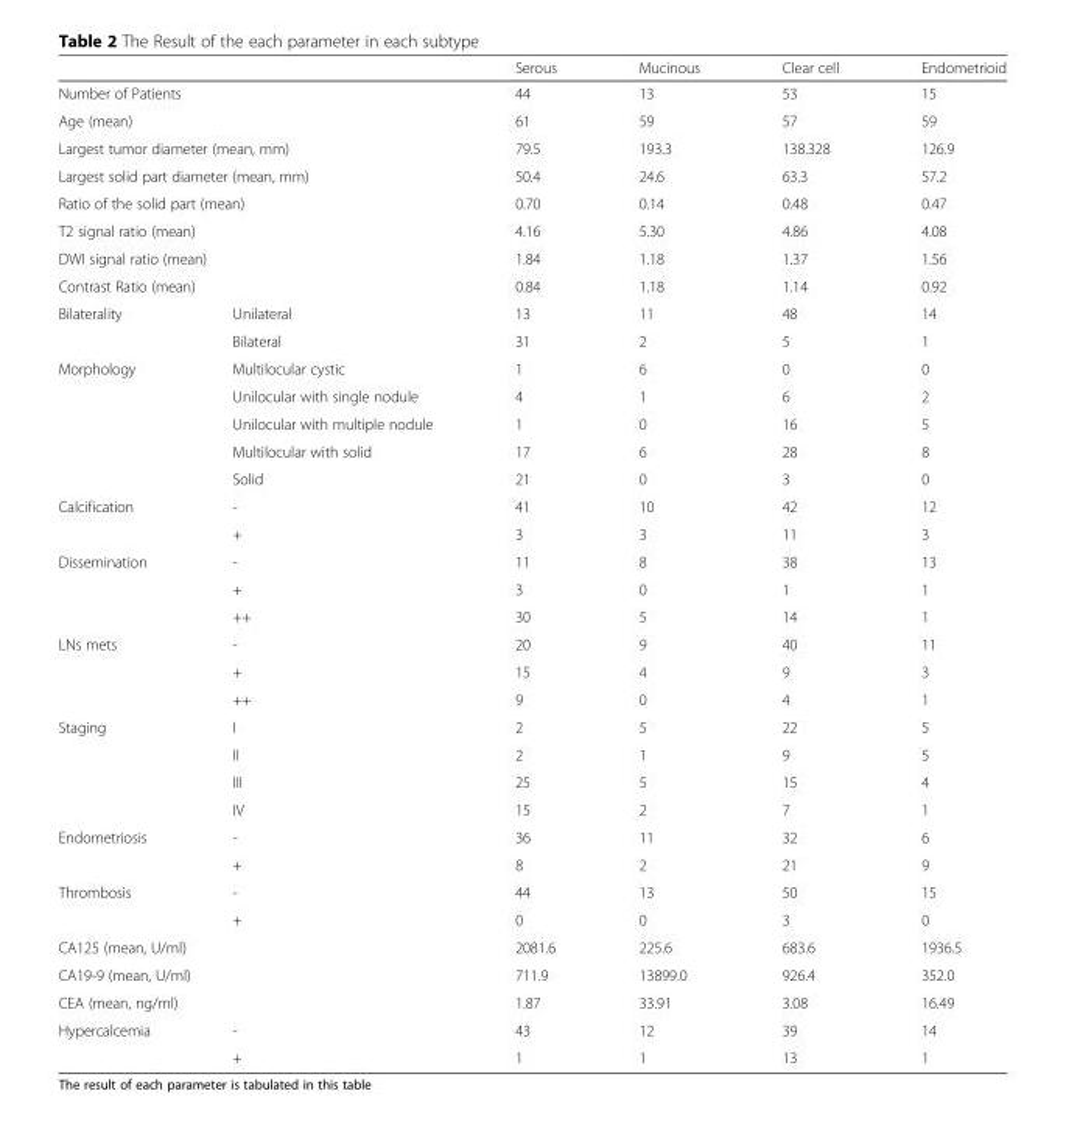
<table><thead><tr><td></td><td></td><td>Serous</td><td>Mucinous</td><td>Clear cell</td><td>Endometrioid</td></tr></thead><tbody><tr><td colspan="2">Number of Patients</td><td>44</td><td>13</td><td>53</td><td>15</td></tr><tr><td colspan="2">Age (mean)</td><td>61</td><td>59</td><td>57</td><td>59</td></tr><tr><td colspan="2">Largest tumor diameter (mean, mm)</td><td>79.5</td><td>193.3</td><td>138.328</td><td>126.9</td></tr><tr><td colspan="2">Largest solid part diameter (mean, mm)</td><td>50.4</td><td>24.6</td><td>63.3</td><td>57.2</td></tr><tr><td colspan="2">Ratio of the solid part (mean)</td><td>0.70</td><td>0.14</td><td>0.48</td><td>0.47</td></tr><tr><td colspan="2">T2 signal ratio (mean)</td><td>4.16</td><td>5.30</td><td>4.86</td><td>4.08</td></tr><tr><td colspan="2">DWI signal ratio (mean)</td><td>1.84</td><td>1.18</td><td>1.37</td><td>1.56</td></tr><tr><td colspan="2">Contrast Ratio (mean)</td><td>0.84</td><td>1.18</td><td>1.14</td><td>0.92</td></tr><tr><td rowspan="2">Bilaterality</td><td>Unilateral</td><td>13</td><td>11</td><td>48</td><td>14</td></tr><tr><td>Bilateral</td><td>31</td><td>2</td><td>5</td><td>1</td></tr><tr><td rowspan="5">Morphology</td><td>Multilocular cystic</td><td>1</td><td>6</td><td>0</td><td>0</td></tr><tr><td>Unilocular with single nodule</td><td>4</td><td>1</td><td>6</td><td>2</td></tr><tr><td>Unilocular with multiple nodule</td><td>1</td><td>0</td><td>16</td><td>5</td></tr><tr><td>Multilocular with solid</td><td>17</td><td>6</td><td>28</td><td>8</td></tr><tr><td>Solid</td><td>21</td><td>0</td><td>3</td><td>0</td></tr><tr><td rowspan="2">Calcification</td><td>-</td><td>41</td><td>10</td><td>42</td><td>12</td></tr><tr><td>+</td><td>3</td><td>3</td><td>11</td><td>3</td></tr><tr><td rowspan="3">Dissemination</td><td>-</td><td>11</td><td>8</td><td>38</td><td>13</td></tr><tr><td>+</td><td>3</td><td>0</td><td>1</td><td>1</td></tr><tr><td>++</td><td>30</td><td>5</td><td>14</td><td>1</td></tr><tr><td rowspan="3">LNs mets</td><td>-</td><td>20</td><td>9</td><td>40</td><td>11</td></tr><tr><td>+</td><td>15</td><td>4</td><td>9</td><td>3</td></tr><tr><td>++</td><td>9</td><td>0</td><td>4</td><td>1</td></tr><tr><td rowspan="4">Staging</td><td>I</td><td>2</td><td>5</td><td>22</td><td>5</td></tr><tr><td>II</td><td>2</td><td>1</td><td>9</td><td>5</td></tr><tr><td>III</td><td>25</td><td>5</td><td>15</td><td>4</td></tr><tr><td>IV</td><td>15</td><td>2</td><td>7</td><td>1</td></tr><tr><td rowspan="2">Endometriosis</td><td>-</td><td>36</td><td>11</td><td>32</td><td>6</td></tr><tr><td>+</td><td>8</td><td>2</td><td>21</td><td>9</td></tr><tr><td rowspan="2">Thrombosis</td><td>-</td><td>44</td><td>13</td><td>50</td><td>15</td></tr><tr><td>+</td><td>0</td><td>0</td><td>3</td><td>0</td></tr><tr><td colspan="2">CA125 (mean, U/ml)</td><td>2081.6</td><td>225.6</td><td>683.6</td><td>1936.5</td></tr><tr><td colspan="2">CA19-9 (mean, U/ml)</td><td>711.9</td><td>13899.0</td><td>926.4</td><td>352.0</td></tr><tr><td colspan="2">CEA (mean, ng/ml)</td><td>1.87</td><td>33.91</td><td>3.08</td><td>16.49</td></tr><tr><td rowspan="2">Hypercalcemia</td><td>-</td><td>43</td><td>12</td><td>39</td><td>14</td></tr><tr><td>+</td><td>1</td><td>1</td><td>13</td><td>1</td></tr></tbody></table>